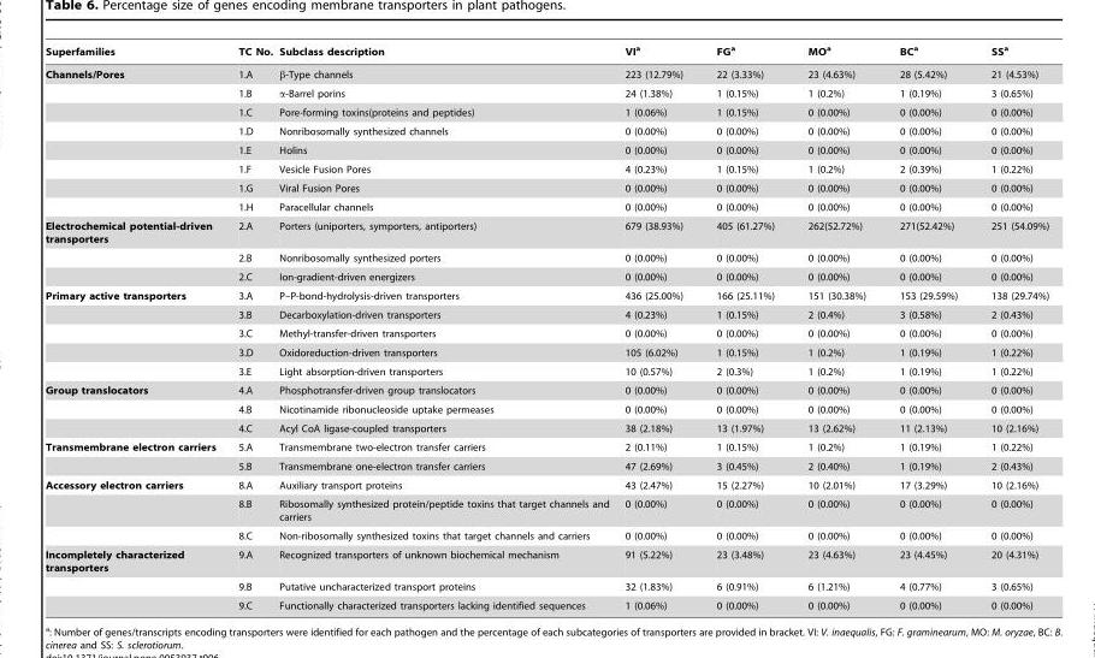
<table><thead><tr><td>Superfamilies</td><td>TC No.</td><td>Subclass description</td><td>VI<sup>a</sup></td><td>FG<sup>a</sup></td><td>MO<sup>a</sup></td><td>BC<sup>a</sup></td><td>SS<sup>a</sup></td></tr></thead><tbody><tr><td rowspan="8">Channels/Pores</td><td>1.A</td><td>β-Type channels</td><td>223 (12.79%)</td><td>22 (3.33%)</td><td>23 (4.63%)</td><td>28 (5.42%)</td><td>21 (4.53%)</td></tr><tr><td>1.B</td><td>α-Barrel porins</td><td>24 (1.38%)</td><td>1 (0.15%)</td><td>1 (0.2%)</td><td>1 (0.19%)</td><td>3 (0.65%)</td></tr><tr><td>1.C</td><td>Pore-forming toxins(proteins and peptides)</td><td>1 (0.06%)</td><td>1 (0.15%)</td><td>0 (0.00%)</td><td>0 (0.00%)</td><td>0 (0.00%)</td></tr><tr><td>1.D</td><td>Nonribosomally synthesized channels</td><td>0 (0.00%)</td><td>0 (0.00%)</td><td>0 (0.00%)</td><td>0 (0.00%)</td><td>0 (0.00%)</td></tr><tr><td>1.E</td><td>Holins</td><td>0 (0.00%)</td><td>0 (0.00%)</td><td>0 (0.00%)</td><td>0 (0.00%)</td><td>0 (0.00%)</td></tr><tr><td>1.F</td><td>Vesicle Fusion Pores</td><td>4 (0.23%)</td><td>1 (0.15%)</td><td>1 (0.2%)</td><td>2 (0.39%)</td><td>1 (0.22%)</td></tr><tr><td>1.G</td><td>Viral Fusion Pores</td><td>0 (0.00%)</td><td>0 (0.00%)</td><td>0 (0.00%)</td><td>0 (0.00%)</td><td>0 (0.00%)</td></tr><tr><td>1.H</td><td>Paracellular channels</td><td>0 (0.00%)</td><td>0 (0.00%)</td><td>0 (0.00%)</td><td>0 (0.00%)</td><td>0 (0.00%)</td></tr><tr><td rowspan="3">Electrochemical potential-driven transporters</td><td>2.A</td><td>Porters (uniporters, symporters, antiporters)</td><td>679 (38.93%)</td><td>405 (61.27%)</td><td>262(52.72%)</td><td>271(52.42%)</td><td>251 (54.09%)</td></tr><tr><td>2.B</td><td>Nonribosomally synthesized porters</td><td>0 (0.00%)</td><td>0 (0.00%)</td><td>0 (0.00%)</td><td>0 (0.00%)</td><td>0 (0.00%)</td></tr><tr><td>2.C</td><td>Ion-gradient-driven energizers</td><td>0 (0.00%)</td><td>0 (0.00%)</td><td>0 (0.00%)</td><td>0 (0.00%)</td><td>0 (0.00%)</td></tr><tr><td rowspan="5">Primary active transporters</td><td>3.A</td><td>P–P-bond-hydrolysis-driven transporters</td><td>436 (25.00%)</td><td>166 (25.11%)</td><td>151 (30.38%)</td><td>153 (29.59%)</td><td>138 (29.74%)</td></tr><tr><td>3.B</td><td>Decarboxylation-driven transporters</td><td>4 (0.23%)</td><td>1 (0.15%)</td><td>2 (0.4%)</td><td>3 (0.58%)</td><td>2 (0.43%)</td></tr><tr><td>3.C</td><td>Methyl-transfer-driven transporters</td><td>0 (0.00%)</td><td>0 (0.00%)</td><td>0 (0.00%)</td><td>0 (0.00%)</td><td>0 (0.00%)</td></tr><tr><td>3.D</td><td>Oxidoreduction-driven transporters</td><td>105 (6.02%)</td><td>1 (0.15%)</td><td>1 (0.2%)</td><td>1 (0.19%)</td><td>1 (0.22%)</td></tr><tr><td>3.E</td><td>Light absorption-driven transporters</td><td>10 (0.57%)</td><td>2 (0.3%)</td><td>1 (0.2%)</td><td>1 (0.19%)</td><td>1 (0.22%)</td></tr><tr><td rowspan="3">Group translocators</td><td>4.A</td><td>Phosphotransfer-driven group translocators</td><td>0 (0.00%)</td><td>0 (0.00%)</td><td>0 (0.00%)</td><td>0 (0.00%)</td><td>0 (0.00%)</td></tr><tr><td>4.B</td><td>Nicotinamide ribonucleoside uptake permeases</td><td>0 (0.00%)</td><td>0 (0.00%)</td><td>0 (0.00%)</td><td>0 (0.00%)</td><td>0 (0.00%)</td></tr><tr><td>4.C</td><td>Acyl CoA ligase-coupled transporters</td><td>38 (2.18%)</td><td>13 (1.97%)</td><td>13 (2.62%)</td><td>11 (2.13%)</td><td>10 (2.16%)</td></tr><tr><td rowspan="2">Transmembrane electron carriers</td><td>5.A</td><td>Transmembrane two-electron transfer carriers</td><td>2 (0.11%)</td><td>1 (0.15%)</td><td>1 (0.2%)</td><td>1 (0.19%)</td><td>1 (0.22%)</td></tr><tr><td>5.B</td><td>Transmembrane one-electron transfer carriers</td><td>47 (2.69%)</td><td>3 (0.45%)</td><td>2 (0.40%)</td><td>1 (0.19%)</td><td>2 (0.43%)</td></tr><tr><td rowspan="3">Accessory electron carriers</td><td>8.A</td><td>Auxiliary transport proteins</td><td>43 (2.47%)</td><td>15 (2.27%)</td><td>10 (2.01%)</td><td>17 (3.29%)</td><td>10 (2.16%)</td></tr><tr><td>8.B</td><td>Ribosomally synthesized protein/peptide toxins that target channels and carriers</td><td>0 (0.00%)</td><td>0 (0.00%)</td><td>0 (0.00%)</td><td>0 (0.00%)</td><td>0 (0.00%)</td></tr><tr><td>8.C</td><td>Non-ribosomally synthesized toxins that target channels and carriers</td><td>0 (0.00%)</td><td>0 (0.00%)</td><td>0 (0.00%)</td><td>0 (0.00%)</td><td>0 (0.00%)</td></tr><tr><td rowspan="3">Incompletely characterized transporters</td><td>9.A</td><td>Recognized transporters of unknown biochemical mechanism</td><td>91 (5.22%)</td><td>23 (3.48%)</td><td>23 (4.63%)</td><td>23 (4.45%)</td><td>20 (4.31%)</td></tr><tr><td>9.B</td><td>Putative uncharacterized transport proteins</td><td>32 (1.83%)</td><td>6 (0.91%)</td><td>6 (1.21%)</td><td>4 (0.77%)</td><td>3 (0.65%)</td></tr><tr><td>9.C</td><td>Functionally characterized transporters lacking identified sequences</td><td>1 (0.06%)</td><td>0 (0.00%)</td><td>0 (0.00%)</td><td>0 (0.00%)</td><td>0 (0.00%)</td></tr></tbody></table>